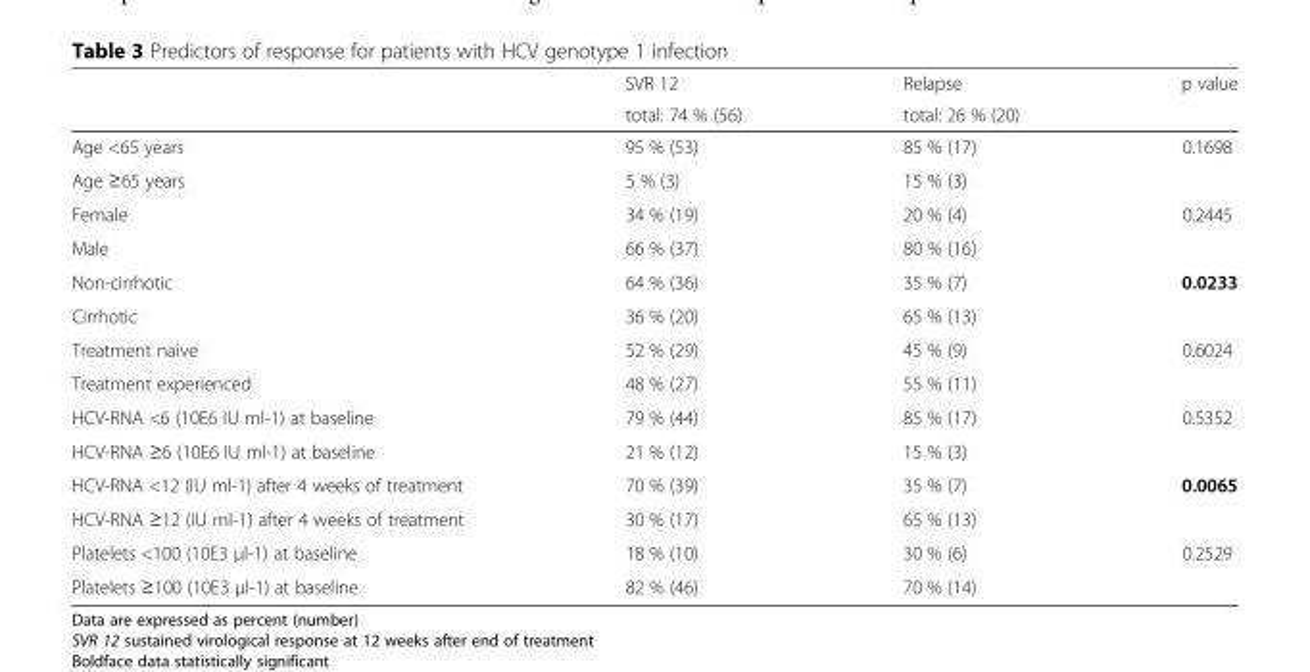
<table><thead><tr><td rowspan="2"></td><td rowspan="2">SVR 12 total: 74 % (56)</td><td rowspan="2">Relapse total: 26 % (20)</td><td rowspan="2">p value</td></tr><tr></tr></thead><tbody><tr><td>Age &lt;65 years</td><td>95 % (53)</td><td>85 % (17)</td><td rowspan="2">0.1698</td></tr><tr><td>Age ≥65 years</td><td>5 % (3)</td><td>15 % (3)</td></tr><tr><td>Female</td><td>34 % (19)</td><td>20 % (4)</td><td rowspan="2">0.2445</td></tr><tr><td>Male</td><td>66 % (37)</td><td>80 % (16)</td></tr><tr><td>Non-cirrhotic</td><td>64 % (36)</td><td>35 % (7)</td><td rowspan="2">0.0233</td></tr><tr><td>Cirrhotic</td><td>36 % (20)</td><td>65 % (13)</td></tr><tr><td>Treatment naive</td><td>52 % (29)</td><td>45 % (9)</td><td rowspan="2">0.6024</td></tr><tr><td>Treatment experienced</td><td>48 % (27)</td><td>55 % (11)</td></tr><tr><td>HCV-RNA &lt;6 (10E6 IU ml-1) at baseline</td><td>79 % (44)</td><td>85 % (17)</td><td rowspan="2">0.5352</td></tr><tr><td>HCV-RNA ≥6 (10E6 IU ml-1) at baseline</td><td>21 % (12)</td><td>15 % (3)</td></tr><tr><td>HCV-RNA &lt;12 (IU ml-1) after 4 weeks of treatment</td><td>70 % (39)</td><td>35 % (7)</td><td rowspan="2">0.0065</td></tr><tr><td>HCV-RNA ≥12 (IU ml-1) after 4 weeks of treatment</td><td>30 % (17)</td><td>65 % (13)</td></tr><tr><td>Platelets &lt;100 (10E3 μl-1) at baseline</td><td>18 % (10)</td><td>30 % (6)</td><td rowspan="2">0.2529</td></tr><tr><td>Platelets ≥100 (10E3 μl-1) at baseline</td><td>82 % (46)</td><td>70 % (14)</td></tr></tbody></table>